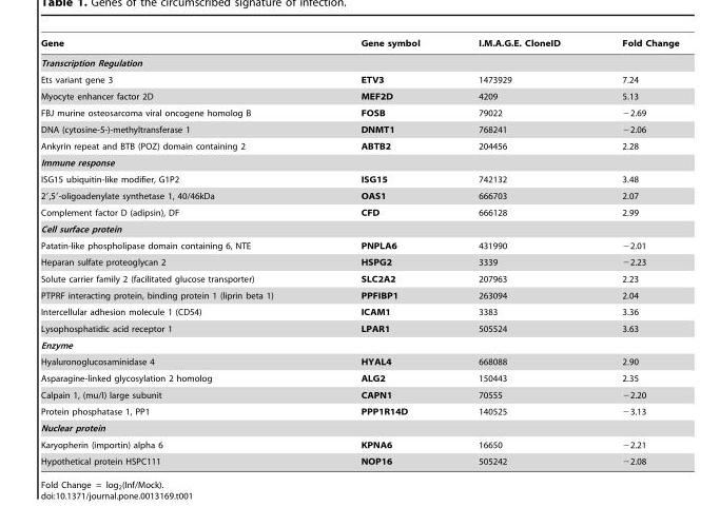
<table><thead><tr><td>Gene</td><td>Gene symbol</td><td>I.M.A.G.E. CloneID</td><td>Fold Change</td></tr></thead><tbody><tr><td colspan="4">Transcription Regulation</td></tr><tr><td>Ets variant gene 3</td><td>ETV3</td><td>1473929</td><td>7.24</td></tr><tr><td>Myocyte enhancer factor 2D</td><td>MEF2D</td><td>4209</td><td>5.13</td></tr><tr><td>FBJ murine osteosarcoma viral oncogene homolog B</td><td>FOSB</td><td>79022</td><td>−2.69</td></tr><tr><td>DNA (cytosine-5-)-methyltransferase 1</td><td>DNMT1</td><td>768241</td><td>−2.06</td></tr><tr><td>Ankyrin repeat and BTB (POZ) domain containing 2</td><td>ABTB2</td><td>204456</td><td>2.28</td></tr><tr><td colspan="4">Immune response</td></tr><tr><td>ISG15 ubiquitin-like modifier, G1P2</td><td>ISG15</td><td>742132</td><td>3.48</td></tr><tr><td>2′,5′-oligoadenylate synthetase 1, 40/46kDa</td><td>OAS1</td><td>666703</td><td>2.07</td></tr><tr><td>Complement factor D (adipsin), DF</td><td>CFD</td><td>666128</td><td>2.99</td></tr><tr><td colspan="4">Cell surface protein</td></tr><tr><td>Patatin-like phospholipase domain containing 6, NTE</td><td>PNPLA6</td><td>431990</td><td>−2.01</td></tr><tr><td>Heparan sulfate proteoglycan 2</td><td>HSPG2</td><td>3339</td><td>−2.23</td></tr><tr><td>Solute carrier family 2 (facilitated glucose transporter)</td><td>SLC2A2</td><td>207963</td><td>2.23</td></tr><tr><td>PTPRF interacting protein, binding protein 1 (liprin beta 1)</td><td>PPFIBP1</td><td>263094</td><td>2.04</td></tr><tr><td>Intercellular adhesion molecule 1 (CD54)</td><td>ICAM1</td><td>3383</td><td>3.36</td></tr><tr><td>Lysophosphatidic acid receptor 1</td><td>LPAR1</td><td>505524</td><td>3.63</td></tr><tr><td colspan="4">Enzyme</td></tr><tr><td>Hyaluronoglucosaminidase 4</td><td>HYAL4</td><td>668088</td><td>2.90</td></tr><tr><td>Asparagine-linked glycosylation 2 homolog</td><td>ALG2</td><td>150443</td><td>2.35</td></tr><tr><td>Calpain 1, (mu/I) large subunit</td><td>CAPN1</td><td>70555</td><td>−2.20</td></tr><tr><td>Protein phosphatase 1, PP1</td><td>PPP1R14D</td><td>140525</td><td>−3.13</td></tr><tr><td colspan="4">Nuclear protein</td></tr><tr><td>Karyopherin (importin) alpha 6</td><td>KPNA6</td><td>16650</td><td>−2.21</td></tr><tr><td>Hypothetical protein HSPC111</td><td>NOP16</td><td>505242</td><td>−2.08</td></tr></tbody></table>